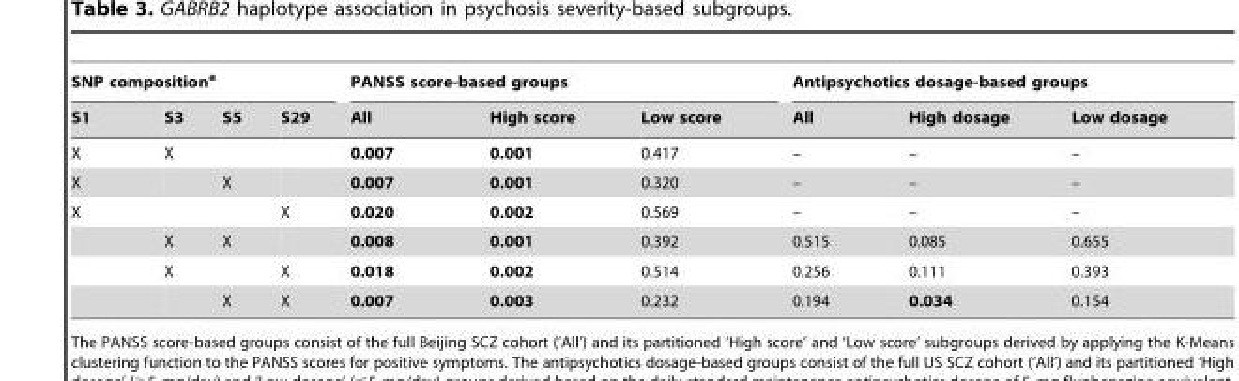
<table><thead><tr><td colspan="4">SNP composition<sup>a</sup></td><td colspan="3">PANSS score-based groups</td><td colspan="3">Antipsychotics dosage-based groups</td></tr><tr><td>S1</td><td>S3</td><td>S5</td><td>S29</td><td>All</td><td>High score</td><td>Low score</td><td>All</td><td>High dosage</td><td>Low dosage</td></tr></thead><tbody><tr><td>X</td><td>X</td><td></td><td></td><td>0.007</td><td>0.001</td><td>0.417</td><td>–</td><td>–</td><td>–</td></tr><tr><td>X</td><td></td><td>X</td><td></td><td>0.007</td><td>0.001</td><td>0.320</td><td>–</td><td>–</td><td>–</td></tr><tr><td rowspan="4">X</td><td></td><td></td><td>X</td><td>0.020</td><td>0.002</td><td>0.569</td><td>–</td><td>–</td><td>–</td></tr><tr><td>X</td><td>X</td><td></td><td>0.008</td><td>0.001</td><td>0.392</td><td>0.515</td><td>0.085</td><td>0.655</td></tr><tr><td>X</td><td></td><td>X</td><td>0.018</td><td>0.002</td><td>0.514</td><td>0.256</td><td>0.111</td><td>0.393</td></tr><tr><td></td><td>X</td><td>X</td><td>0.007</td><td>0.003</td><td>0.232</td><td>0.194</td><td>0.034</td><td>0.154</td></tr></tbody></table>